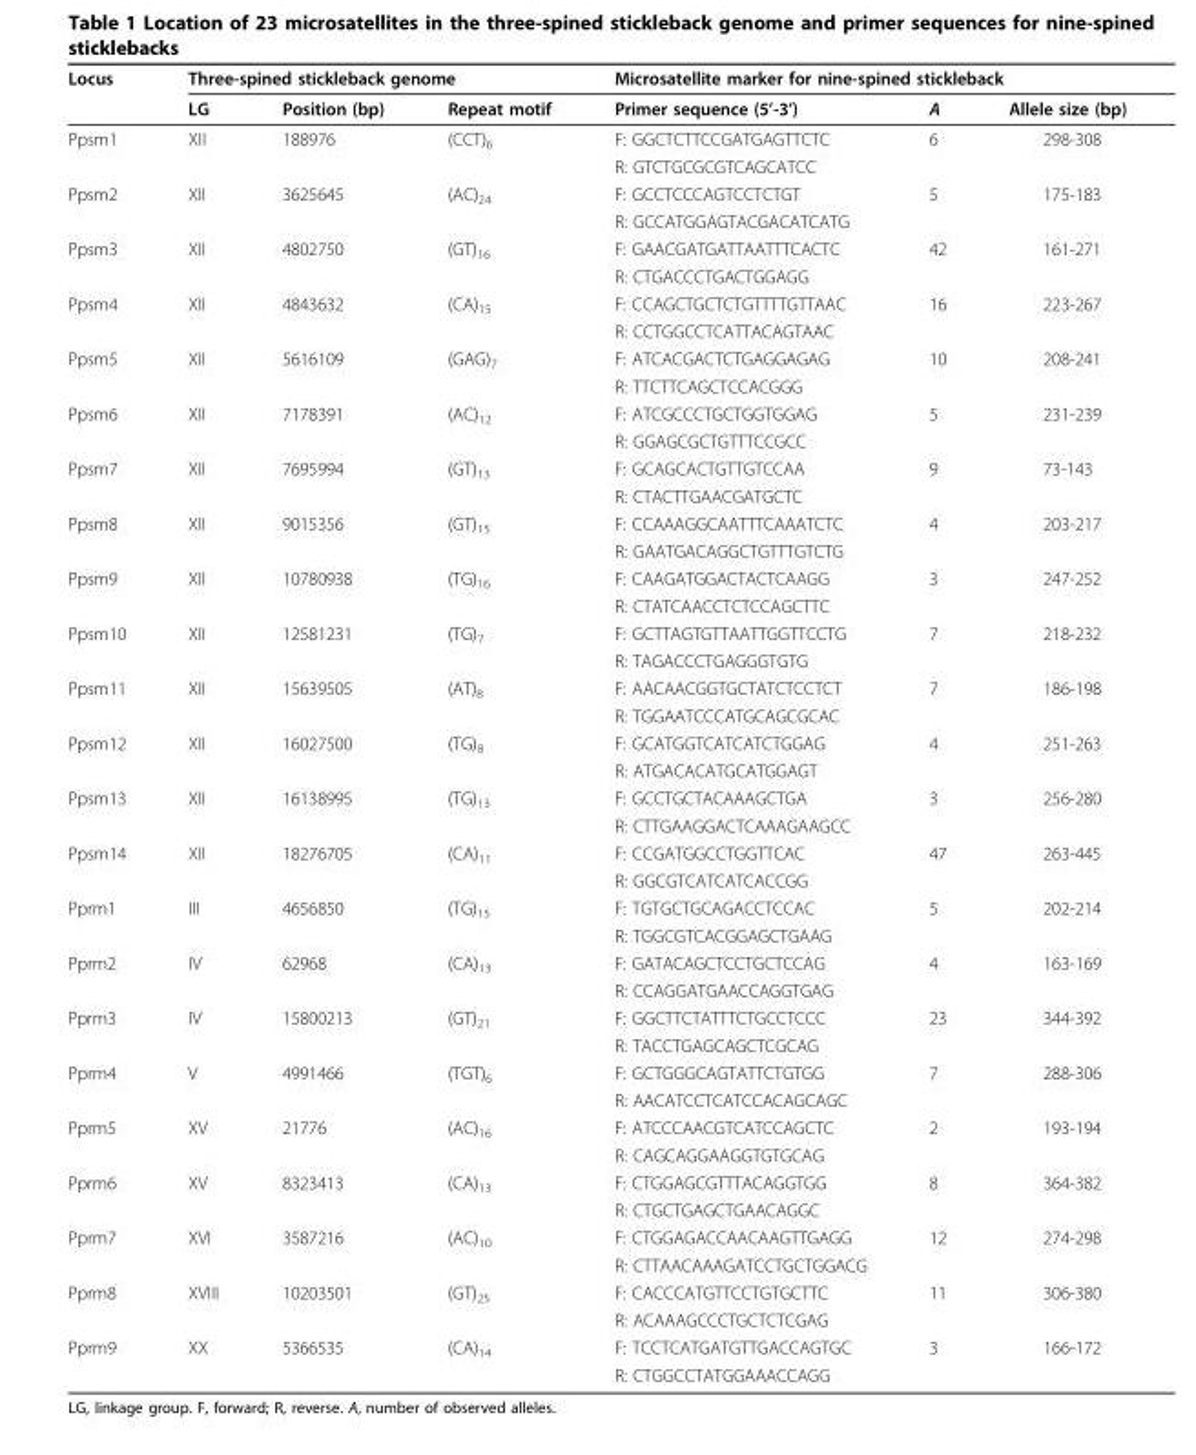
<table><thead><tr><td rowspan="2">Locus</td><td colspan="3">Three-spined stickleback genome</td><td colspan="3">Microsatellite marker for nine-spined stickleback</td></tr><tr><td>LG</td><td>Position (bp)</td><td>Repeat motif</td><td>Primer sequence (5’-3’)</td><td>A</td><td>Allele size (bp)</td></tr></thead><tbody><tr><td rowspan="2">Ppsm1</td><td>XII</td><td>188976</td><td>(CCT)<sub>6</sub></td><td>F: GGCTCTTCCGATGAGTTCTC</td><td>6</td><td>298-308</td></tr><tr><td></td><td></td><td></td><td>R: GTCTGCGCGTCAGCATCC</td><td></td><td></td></tr><tr><td rowspan="2">Ppsm2</td><td>XII</td><td>3625645</td><td>(AC)<sub>24</sub></td><td>F: GCCTCCCAGTCCTCTGT</td><td>5</td><td>175-183</td></tr><tr><td></td><td></td><td></td><td>R: GCCATGGAGTACGACATCATG</td><td></td><td></td></tr><tr><td rowspan="2">Ppsm3</td><td>XII</td><td>4802750</td><td>(GT)<sub>16</sub></td><td>F: GAACGATGATTAATTTCACTC</td><td>42</td><td>161-271</td></tr><tr><td></td><td></td><td></td><td>R: CTGACCCTGACTGGAGG</td><td></td><td></td></tr><tr><td rowspan="2">Ppsm4</td><td>XII</td><td>4843632</td><td>(CA)<sub>15</sub></td><td>F: CCAGCTGCTCTGTTTTGTTAAC</td><td>16</td><td>223-267</td></tr><tr><td></td><td></td><td></td><td>R: CCTGGCCTCATTACAGTAAC</td><td></td><td></td></tr><tr><td rowspan="2">Ppsm5</td><td>XII</td><td>5616109</td><td>(GAG)<sub>7</sub></td><td>F: ATCACGACTCTGAGGAGAG</td><td>10</td><td>208-241</td></tr><tr><td></td><td></td><td></td><td>R: TTCTTCAGCTCCACGGG</td><td></td><td></td></tr><tr><td rowspan="2">Ppsm6</td><td>XII</td><td>7178391</td><td>(AC)<sub>12</sub></td><td>F: ATCGCCCTGCTGGTGGAG</td><td>5</td><td>231-239</td></tr><tr><td></td><td></td><td></td><td>R: GGAGCGCTGTTTCCGCC</td><td></td><td></td></tr><tr><td rowspan="2">Ppsm7</td><td>XII</td><td>7695994</td><td>(GT)<sub>13</sub></td><td>F: GCAGCACTGTTGTCCAA</td><td>9</td><td>73-143</td></tr><tr><td></td><td></td><td></td><td>R: CTACTTGAACGATGCTC</td><td></td><td></td></tr><tr><td rowspan="2">Ppsm8</td><td>XII</td><td>9015356</td><td>(GT)<sub>15</sub></td><td>F: CCAAAGGCAATTTCAAATCTC</td><td>4</td><td>203-217</td></tr><tr><td></td><td></td><td></td><td>R: GAATGACAGGCTGTTTGTCTG</td><td></td><td></td></tr><tr><td rowspan="2">Ppsm9</td><td>XII</td><td>10780938</td><td>(TG)<sub>16</sub></td><td>F: CAAGATGGACTACTCAAGG</td><td>3</td><td>247-252</td></tr><tr><td></td><td></td><td></td><td>R: CTATCAACCTCTCCAGCTTC</td><td></td><td></td></tr><tr><td rowspan="2">Ppsm10</td><td>XII</td><td>12581231</td><td>(TG)<sub>7</sub></td><td>F: GCTTAGTGTTAATTGGTTCCTG</td><td>7</td><td>218-232</td></tr><tr><td></td><td></td><td></td><td>R: TAGACCCTGAGGGTGTG</td><td></td><td></td></tr><tr><td rowspan="2">Ppsm11</td><td>XII</td><td>15639505</td><td>(AT)<sub>8</sub></td><td>F: AACAACGGTGCTATCTCCTCT</td><td>7</td><td>186-198</td></tr><tr><td></td><td></td><td></td><td>R: TGGAATCCCATGCAGCGCAC</td><td></td><td></td></tr><tr><td rowspan="2">Ppsm12</td><td>XII</td><td>16027500</td><td>(TG)<sub>8</sub></td><td>F: GCATGGTCATCATCTGGAG</td><td>4</td><td>251-263</td></tr><tr><td></td><td></td><td></td><td>R: ATGACACATGCATGGAGT</td><td></td><td></td></tr><tr><td rowspan="2">Ppsm13</td><td>XII</td><td>16138995</td><td>(TG)<sub>13</sub></td><td>F: GCCTGCTACAAAGCTGA</td><td>3</td><td>256-280</td></tr><tr><td></td><td></td><td></td><td>R: CTTGAAGGACTCAAAGAAGCC</td><td></td><td></td></tr><tr><td rowspan="2">Ppsm14</td><td>XII</td><td>18276705</td><td>(CA)<sub>11</sub></td><td>F: CCGATGGCCTGGTTCAC</td><td>47</td><td>263-445</td></tr><tr><td></td><td></td><td></td><td>R: GGCGTCATCATCACCGG</td><td></td><td></td></tr><tr><td rowspan="2">Pprm1</td><td>III</td><td>4656850</td><td>(TG)<sub>15</sub></td><td>F: TGTGCTGCAGACCTCCAC</td><td>5</td><td>202-214</td></tr><tr><td></td><td></td><td></td><td>R: TGGCGTCACGGAGCTGAAG</td><td></td><td></td></tr><tr><td rowspan="2">Pprm2</td><td>IV</td><td>62968</td><td>(CA)<sub>13</sub></td><td>F: GATACAGCTCCTGCTCCAG</td><td>4</td><td>163-169</td></tr><tr><td></td><td></td><td></td><td>R: CCAGGATGAACCAGGTGAG</td><td></td><td></td></tr><tr><td rowspan="2">Pprm3</td><td>IV</td><td>15800213</td><td>(GT)<sub>21</sub></td><td>F: GGCTTCTATTTCTGCCTCCC</td><td>23</td><td>344-392</td></tr><tr><td></td><td></td><td></td><td>R: TACCTGAGCAGCTCGCAG</td><td></td><td></td></tr><tr><td rowspan="2">Pprm4</td><td>V</td><td>4991466</td><td>(TGT)<sub>6</sub></td><td>F: GCTGGGCAGTATTCTGTGG</td><td>7</td><td>288-306</td></tr><tr><td></td><td></td><td></td><td>R: AACATCCTCATCCACAGCAGC</td><td></td><td></td></tr><tr><td rowspan="2">Pprm5</td><td>XV</td><td>21776</td><td>(AC)<sub>16</sub></td><td>F: ATCCCAACGTCATCCAGCTC</td><td>2</td><td>193-194</td></tr><tr><td></td><td></td><td></td><td>R: CAGCAGGAAGGTGTGCAG</td><td></td><td></td></tr><tr><td rowspan="2">Pprm6</td><td>XV</td><td>8323413</td><td>(CA)<sub>13</sub></td><td>F: CTGGAGCGTTTACAGGTGG</td><td>8</td><td>364-382</td></tr><tr><td></td><td></td><td></td><td>R: CTGCTGAGCTGAACAGGC</td><td></td><td></td></tr><tr><td rowspan="2">Pprm7</td><td>XVI</td><td>3587216</td><td>(AC)<sub>10</sub></td><td>F: CTGGAGACCAACAAGTTGAGG</td><td>12</td><td>274-298</td></tr><tr><td></td><td></td><td></td><td>R: CTTAACAAAGATCCTGCTGGACG</td><td></td><td></td></tr><tr><td rowspan="2">Pprm8</td><td>XVIII</td><td>10203501</td><td>(GT)<sub>25</sub></td><td>F: CACCCATGTTCCTGTGCTTC</td><td>11</td><td>306-380</td></tr><tr><td></td><td></td><td></td><td>R: ACAAAGCCCTGCTCTCGAG</td><td></td><td></td></tr><tr><td rowspan="2">Pprm9</td><td>XX</td><td>5366535</td><td>(CA)<sub>14</sub></td><td>F: TCCTCATGATGTTGACCAGTGC</td><td>3</td><td>166-172</td></tr><tr><td></td><td></td><td></td><td>R: CTGGCCTATGGAAACCAGG</td><td></td><td></td></tr></tbody></table>